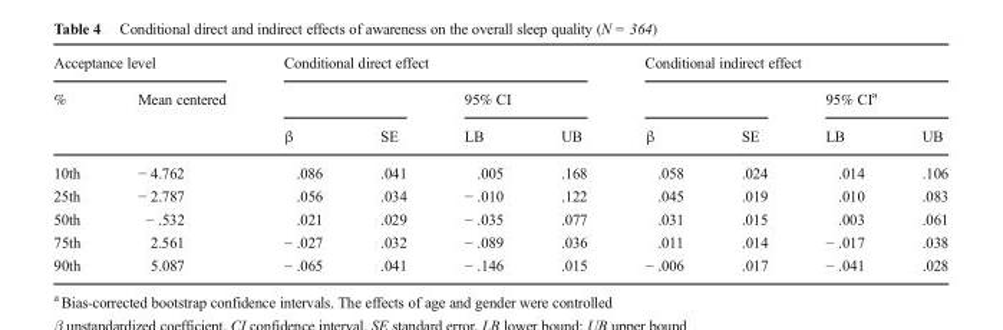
<table><thead><tr><td colspan="2">Acceptance level</td><td colspan="4">Conditional direct effect</td><td colspan="4">Conditional indirect effect</td></tr><tr><td rowspan="2">%</td><td rowspan="2">Mean centered</td><td rowspan="2">β</td><td rowspan="2">SE</td><td colspan="2">95% CI</td><td rowspan="2">β</td><td rowspan="2">SE</td><td colspan="2">95% CI<sup>a</sup></td></tr><tr><td>LB</td><td>UB</td><td>LB</td><td>UB</td></tr></thead><tbody><tr><td>10th</td><td>− 4.762</td><td>.086</td><td>.041</td><td>.005</td><td>.168</td><td>.058</td><td>.024</td><td>.014</td><td>.106</td></tr><tr><td>25th</td><td>− 2.787</td><td>.056</td><td>.034</td><td>− .010</td><td>.122</td><td>.045</td><td>.019</td><td>.010</td><td>.083</td></tr><tr><td>50th</td><td>− .532</td><td>.021</td><td>.029</td><td>− .035</td><td>.077</td><td>.031</td><td>.015</td><td>.003</td><td>.061</td></tr><tr><td>75th</td><td>2.561</td><td>− .027</td><td>.032</td><td>− .089</td><td>.036</td><td>.011</td><td>.014</td><td>− .017</td><td>.038</td></tr><tr><td>90th</td><td>5.087</td><td>− .065</td><td>.041</td><td>− .146</td><td>.015</td><td>− .006</td><td>.017</td><td>− .041</td><td>.028</td></tr></tbody></table>